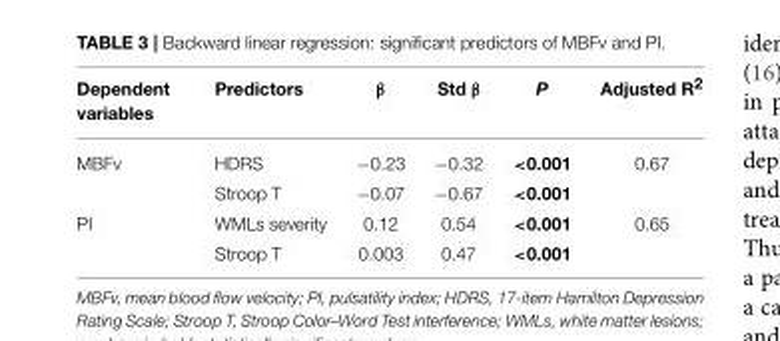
<table><thead><tr><td>Dependent variables</td><td>Predictors</td><td>β</td><td>Std β</td><td>P</td><td>Adjusted R<sup>2</sup></td></tr></thead><tbody><tr><td rowspan="2">MBFv</td><td>HDRS</td><td>−0.23</td><td>−0.32</td><td>&lt;0.001</td><td>0.67</td></tr><tr><td>Stroop T</td><td>−0.07</td><td>−0.67</td><td>&lt;0.001</td><td></td></tr><tr><td rowspan="2">PI</td><td>WMLs severity</td><td>0.12</td><td>0.54</td><td>&lt;0.001</td><td>0.65</td></tr><tr><td>Stroop T</td><td>0.003</td><td>0.47</td><td>&lt;0.001</td><td></td></tr></tbody></table>